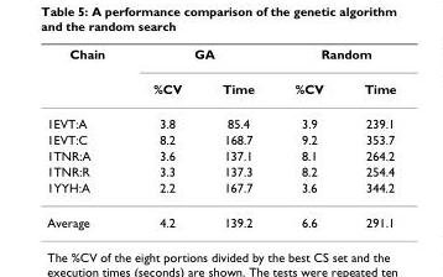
<table><thead><tr><td rowspan="2">Chain</td><td colspan="2">GA</td><td colspan="2">Random</td></tr><tr><td>%CV</td><td>Time</td><td>%CV</td><td>Time</td></tr></thead><tbody><tr><td>1EVT:A</td><td>3.8</td><td>85.4</td><td>3.9</td><td>239.1</td></tr><tr><td>1EVT:C</td><td>8.2</td><td>168.7</td><td>9.2</td><td>353.7</td></tr><tr><td>1TNR:A</td><td>3.6</td><td>137.1</td><td>8.1</td><td>264.2</td></tr><tr><td>1TNR:R</td><td>3.3</td><td>137.3</td><td>8.2</td><td>254.4</td></tr><tr><td>1YYH:A</td><td>2.2</td><td>167.7</td><td>3.6</td><td>344.2</td></tr><tr><td>Average</td><td>4.2</td><td>139.2</td><td>6.6</td><td>291.1</td></tr></tbody></table>